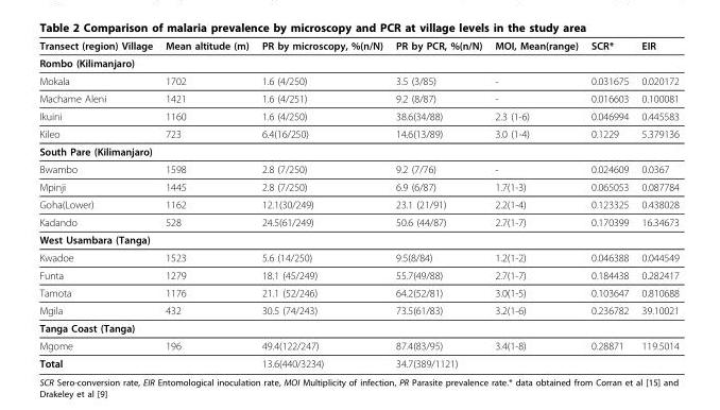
<table><thead><tr><td>Transect (region) Village</td><td>Mean altitude (m)</td><td>PR by microscopy, %(n/N)</td><td>PR by PCR, %(n/N)</td><td>MOI, Mean(range)</td><td>SCR*</td><td>EIR</td></tr></thead><tbody><tr><td colspan="7">Rombo (Kilimanjaro)</td></tr><tr><td>Mokala</td><td>1702</td><td>1.6 (4/250)</td><td>3.5 (3/85)</td><td>-</td><td>0.031675</td><td>0.020172</td></tr><tr><td>Machame Aleni</td><td>1421</td><td>1.6 (4/251)</td><td>9.2 (8/87)</td><td>-</td><td>0.016603</td><td>0.100081</td></tr><tr><td>Ikuini</td><td>1160</td><td>1.6 (4/250)</td><td>38.6(34/88)</td><td>2.3 (1-6)</td><td>0.046994</td><td>0.445583</td></tr><tr><td>Kileo</td><td>723</td><td>6.4(16/250)</td><td>14.6(13/89)</td><td>3.0 (1-4)</td><td>0.1229</td><td>5.379136</td></tr><tr><td colspan="7">South Pare (Kilimanjaro)</td></tr><tr><td>Bwambo</td><td>1598</td><td>2.8 (7/250)</td><td>9.2 (7/76)</td><td>-</td><td>0.024609</td><td>0.0367</td></tr><tr><td>Mpinji</td><td>1445</td><td>2.8 (7/250)</td><td>6.9 (6/87)</td><td>1.7(1-3)</td><td>0.065053</td><td>0.087784</td></tr><tr><td>Goha(Lower)</td><td>1162</td><td>12.1(30/249)</td><td>23.1 (21/91)</td><td>2.2(1-4)</td><td>0.123325</td><td>0.438028</td></tr><tr><td>Kadando</td><td>528</td><td>24.5(61/249)</td><td>50.6 (44/87)</td><td>2.7(1-7)</td><td>0.170399</td><td>16.34673</td></tr><tr><td colspan="7">West Usambara (Tanga)</td></tr><tr><td>Kwadoe</td><td>1523</td><td>5.6 (14/250)</td><td>9.5(8/84)</td><td>1.2(1-2)</td><td>0.046388</td><td>0.044549</td></tr><tr><td>Funta</td><td>1279</td><td>18.1 (45/249)</td><td>55.7(49/88)</td><td>2.7(1-7)</td><td>0.184438</td><td>0.282417</td></tr><tr><td>Tamota</td><td>1176</td><td>21.1 (52/246)</td><td>64.2(52/81)</td><td>3.0(1-5)</td><td>0.103647</td><td>0.810688</td></tr><tr><td>Mgila</td><td>432</td><td>30.5 (74/243)</td><td>73.5(61/83)</td><td>3.2(1-6)</td><td>0.236782</td><td>39.10021</td></tr><tr><td colspan="7">Tanga Coast (Tanga)</td></tr><tr><td>Mgome</td><td>196</td><td>49.4(122/247)</td><td>87.4(83/95)</td><td>3.4(1-8)</td><td>0.28871</td><td>119.5014</td></tr><tr><td>Total</td><td></td><td>13.6(440/3234)</td><td>34.7(389/1121)</td><td></td><td></td><td></td></tr></tbody></table>